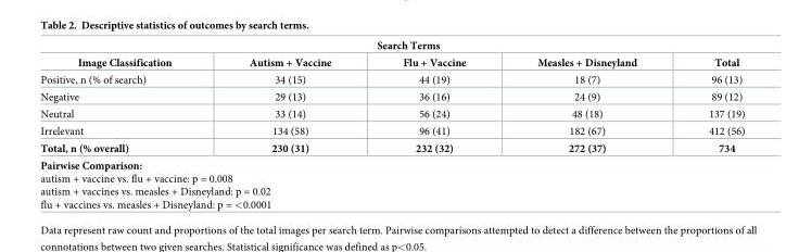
<table><thead><tr><td colspan="5">Search Terms</td></tr><tr><td>Image Classification</td><td>Autism + Vaccine</td><td>Flu + Vaccine</td><td>Measles + Disneyland</td><td>Total</td></tr></thead><tbody><tr><td>Positive, n (% of search)</td><td>34 (15)</td><td>44 (19)</td><td>18 (7)</td><td>96 (13)</td></tr><tr><td>Negative</td><td>29 (13)</td><td>36 (16)</td><td>24 (9)</td><td>89 (12)</td></tr><tr><td>Neutral</td><td>33 (14)</td><td>56 (24)</td><td>48 (18)</td><td>137 (19)</td></tr><tr><td>Irrelevant</td><td>134 (58)</td><td>96 (41)</td><td>182 (67)</td><td>412 (56)</td></tr><tr><td>Total, n (% overall)</td><td>230 (31)</td><td>232 (32)</td><td>272 (37)</td><td>734</td></tr><tr><td colspan="5">Pairwise Comparison: autism + vaccine vs. flu + vaccine: p = 0.008 autism + vaccines vs. measles + Disneyland: p = 0.02 flu + vaccines vs. measles + Disneyland: p = &lt;0.0001</td></tr></tbody></table>